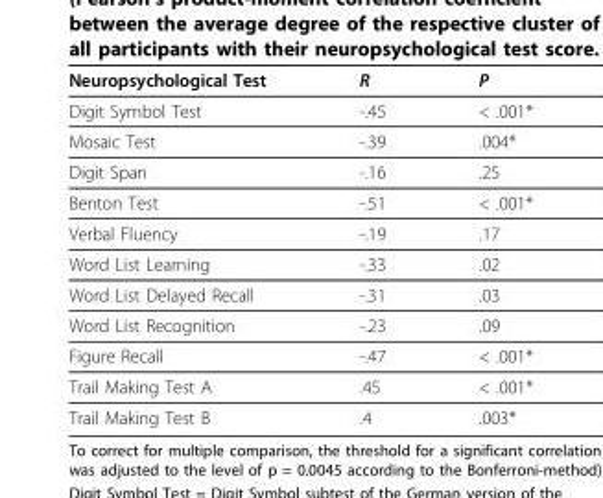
<table><thead><tr><td>Neuropsychological Test</td><td>R</td><td>P</td></tr></thead><tbody><tr><td>Digit Symbol Test</td><td>-.45</td><td>&lt; .001*</td></tr><tr><td>Mosaic Test</td><td>-.39</td><td>.004*</td></tr><tr><td>Digit Span</td><td>-.16</td><td>.25</td></tr><tr><td>Benton Test</td><td>-.51</td><td>&lt; .001*</td></tr><tr><td>Verbal Fluency</td><td>-.19</td><td>.17</td></tr><tr><td>Word List Learning</td><td>-.33</td><td>.02</td></tr><tr><td>Word List Delayed Recall</td><td>-.31</td><td>.03</td></tr><tr><td>Word List Recognition</td><td>-.23</td><td>.09</td></tr><tr><td>Figure Recall</td><td>-.47</td><td>&lt; .001*</td></tr><tr><td>Trail Making Test A</td><td>.45</td><td>&lt; .001*</td></tr><tr><td>Trail Making Test B</td><td>.4</td><td>.003*</td></tr></tbody></table>